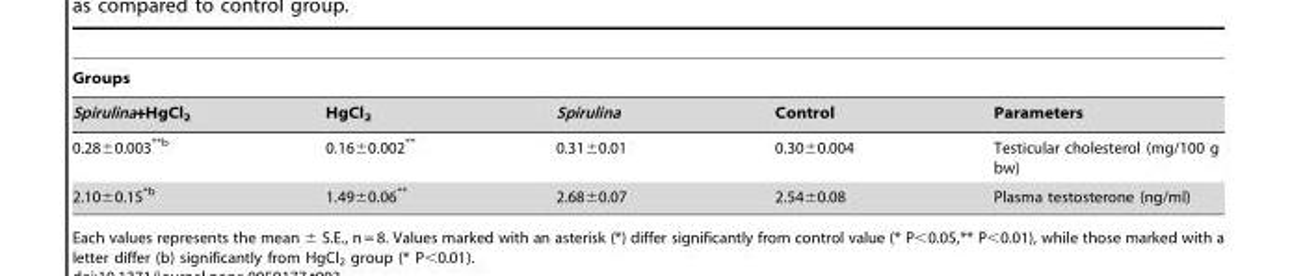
<table><thead><tr><td colspan="5">Groups</td></tr><tr><td>Spirulina+HgCl<sub>2</sub></td><td>HgCl<sub>2</sub></td><td>Spirulina</td><td>Control</td><td>Parameters</td></tr></thead><tbody><tr><td>0.28±0.003<sup>**b</sup></td><td>0.16±0.002**</td><td>0.31±0.01</td><td>0.30±0.004</td><td>Testicular cholesterol (mg/100 g bw)</td></tr><tr><td>2.10±0.15<sup>*b</sup></td><td>1.49±0.06**</td><td>2.68±0.07</td><td>2.54±0.08</td><td>Plasma testosterone (ng/ml)</td></tr></tbody></table>